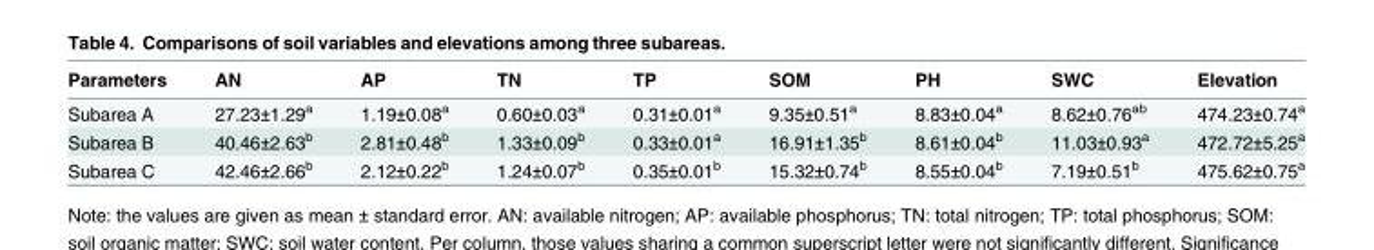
<table><thead><tr><td>Parameters</td><td>AN</td><td>AP</td><td>TN</td><td>TP</td><td>SOM</td><td>PH</td><td>SWC</td><td>Elevation</td></tr></thead><tbody><tr><td>Subarea A</td><td>27.23±1.29<sup>a</sup></td><td>1.19±0.08<sup>a</sup></td><td>0.60±0.03<sup>a</sup></td><td>0.31±0.01<sup>a</sup></td><td>9.35±0.51<sup>a</sup></td><td>8.83±0.04<sup>a</sup></td><td>8.62±0.76<sup>ab</sup></td><td>474.23±0.74<sup>a</sup></td></tr><tr><td>Subarea B</td><td>40.46±2.63<sup>b</sup></td><td>2.81±0.48<sup>b</sup></td><td>1.33±0.09<sup>b</sup></td><td>0.33±0.01<sup>a</sup></td><td>16.91±1.35<sup>b</sup></td><td>8.61±0.04<sup>b</sup></td><td>11.03±0.93<sup>a</sup></td><td>472.72±5.25<sup>a</sup></td></tr><tr><td>Subarea C</td><td>42.46±2.66<sup>b</sup></td><td>2.12±0.22<sup>b</sup></td><td>1.24±0.07<sup>b</sup></td><td>0.35±0.01<sup>b</sup></td><td>15.32±0.74<sup>b</sup></td><td>8.55±0.04<sup>b</sup></td><td>7.19±0.51<sup>b</sup></td><td>475.62±0.75<sup>a</sup></td></tr></tbody></table>